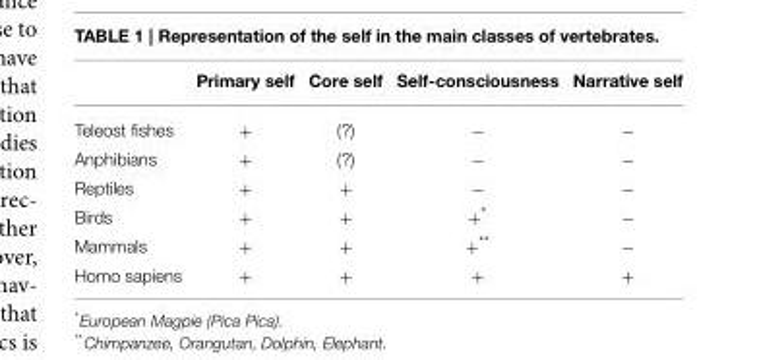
<table><thead><tr><td></td><td>Primary self</td><td>Core self</td><td>Self-consciousness</td><td>Narrative self</td></tr></thead><tbody><tr><td>Teleost fishes</td><td>+</td><td>(?)</td><td>−</td><td>−</td></tr><tr><td>Anphibians</td><td>+</td><td>(?)</td><td>−</td><td>−</td></tr><tr><td>Reptiles</td><td>+</td><td>+</td><td>−</td><td>−</td></tr><tr><td>Birds</td><td>+</td><td>+</td><td>+*</td><td>−</td></tr><tr><td>Mammals</td><td>+</td><td>+</td><td>+**</td><td>−</td></tr><tr><td>Homo sapiens</td><td>+</td><td>+</td><td>+</td><td>+</td></tr></tbody></table>